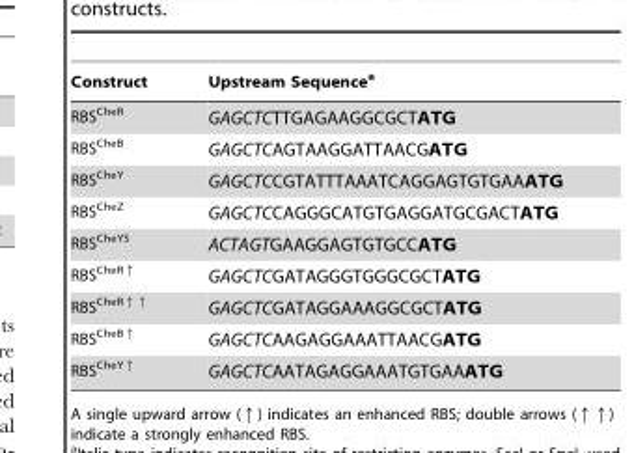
<table><thead><tr><td>Construct</td><td>Upstream Sequence<sup>a</sup></td></tr></thead><tbody><tr><td>RBS<sup>CheR</sup></td><td>GAGCTCTTGAGAAGGCGCTATG</td></tr><tr><td>RBS<sup>CheB</sup></td><td>GAGCTCAGTAAGGATTAACGATG</td></tr><tr><td>RBS<sup>CheY</sup></td><td>GAGCTCCGTATTTAAATCAGGAGTGTGAAATG</td></tr><tr><td>RBS<sup>CheZ</sup></td><td>GAGCTCCAGGGCATGTGAGGATGCGACTATG</td></tr><tr><td>RBS<sup>CheYS</sup></td><td>ACTAGTGAAGGAGTGTGCCATG</td></tr><tr><td>RBS<sup>CheR↑</sup></td><td>GAGCTCGATAGGGTGGGCGCTATG</td></tr><tr><td>RBS<sup>CheR↑↑</sup></td><td>GAGCTCGATAGGAAAGGCGCTATG</td></tr><tr><td>RBS<sup>CheB↑</sup></td><td>GAGCTCAAGAGGAAATTAACGATG</td></tr><tr><td>RBS<sup>CheY↑</sup></td><td>GAGCTCAATAGAGGAAATGTGAAATG</td></tr></tbody></table>